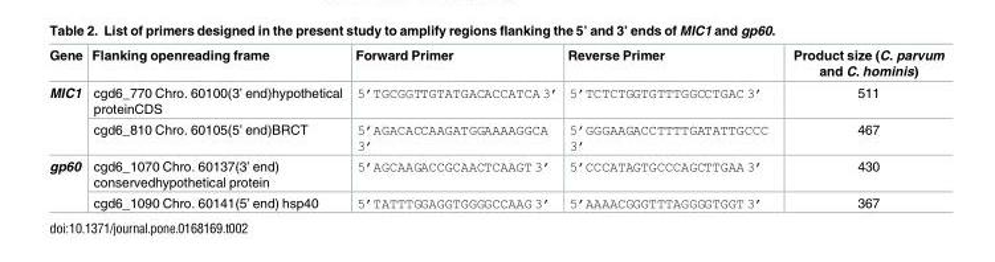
<table><thead><tr><td>Gene</td><td>Flanking openreading frame</td><td>Forward Primer</td><td>Reverse Primer</td><td>Product size (C. parvum and C. hominis)</td></tr></thead><tbody><tr><td rowspan="2">MIC1</td><td>cgd6_770 Chro. 60100(3’ end)hypothetical proteinCDS</td><td>5’TGCGGTTGTATGACACCATCA 3’</td><td>5’TCTCTGGTGTTTGGCCTGAC 3’</td><td>511</td></tr><tr><td>cgd6_810 Chro. 60105(5’ end)BRCT</td><td>5’AGACACCAAGATGGAAAAGGCA 3’</td><td>5’GGGAAGACCTTTTGATATTGCCC 3’</td><td>467</td></tr><tr><td rowspan="2">gp60</td><td>cgd6_1070 Chro. 60137(3’ end) conservedhypothetical protein</td><td>5’AGCAAGACCGCAACTCAAGT 3’</td><td>5’CCCATAGTGCCCAGCTTGAA 3’</td><td>430</td></tr><tr><td>cgd6_1090 Chro. 60141(5’ end) hsp40</td><td>5’TATTTGGAGGTGGGGCCAAG 3’</td><td>5’AAAACGGGTTTAGGGGTGGT 3’</td><td>367</td></tr></tbody></table>